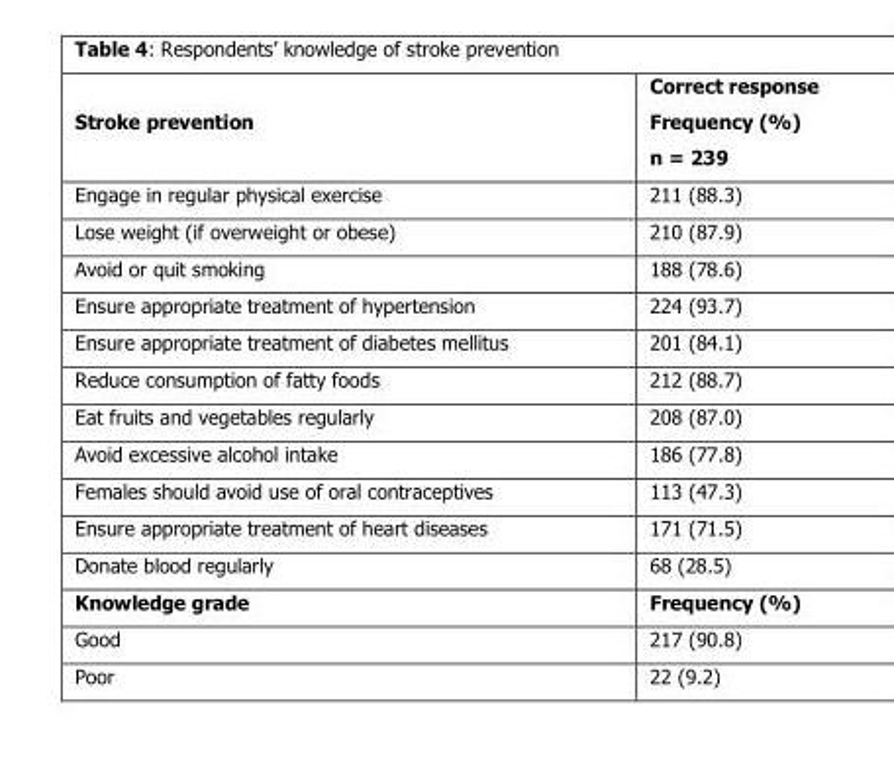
<table><thead><tr><td>Stroke prevention</td><td>Correct response Frequency (%) n = 239</td></tr></thead><tbody><tr><td>Engage in regular physical exercise</td><td>211 (88.3)</td></tr><tr><td>Lose weight (if overweight or obese)</td><td>210 (87.9)</td></tr><tr><td>Avoid or quit smoking</td><td>188 (78.6)</td></tr><tr><td>Ensure appropriate treatment of hypertension</td><td>224 (93.7)</td></tr><tr><td>Ensure appropriate treatment of diabetes mellitus</td><td>201 (84.1)</td></tr><tr><td>Reduce consumption of fatty foods</td><td>212 (88.7)</td></tr><tr><td>Eat fruits and vegetables regularly</td><td>208 (87.0)</td></tr><tr><td>Avoid excessive alcohol intake</td><td>186 (77.8)</td></tr><tr><td>Females should avoid use of oral contraceptives</td><td>113 (47.3)</td></tr><tr><td>Ensure appropriate treatment of heart diseases</td><td>171 (71.5)</td></tr><tr><td>Donate blood regularly</td><td>68 (28.5)</td></tr><tr><td>Knowledge grade</td><td>Frequency (%)</td></tr><tr><td>Good</td><td>217 (90.8)</td></tr><tr><td>Poor</td><td>22 (9.2)</td></tr></tbody></table>